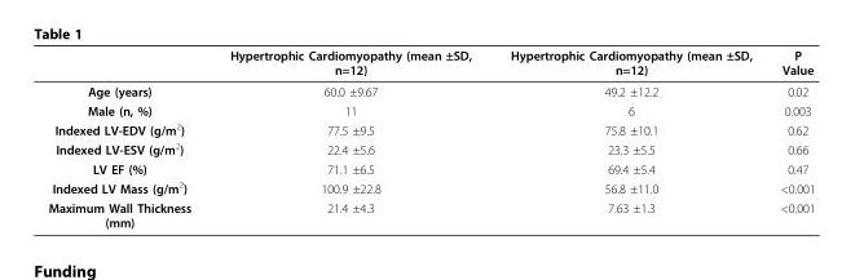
<table><thead><tr><td></td><td>Hypertrophic Cardiomyopathy (mean ±SD, n=12)</td><td>Hypertrophic Cardiomyopathy (mean ±SD, n=12)</td><td>P Value</td></tr></thead><tbody><tr><td>Age (years)</td><td>60.0 ±9.67</td><td>49.2 ±12.2</td><td>0.02</td></tr><tr><td>Male (n, %)</td><td>11</td><td>6</td><td>0.003</td></tr><tr><td>Indexed LV-EDV (g/m<sup>2</sup>)</td><td>77.5 ±9.5</td><td>75.8 ±10.1</td><td>0.62</td></tr><tr><td>Indexed LV-ESV (g/m<sup>2</sup>)</td><td>22.4 ±5.6</td><td>23.3 ±5.5</td><td>0.66</td></tr><tr><td>LV EF (%)</td><td>71.1 ±6.5</td><td>69.4 ±5.4</td><td>0.47</td></tr><tr><td>Indexed LV Mass (g/m<sup>2</sup>)</td><td>100.9 ±22.8</td><td>56.8 ±11.0</td><td>&lt;0.001</td></tr><tr><td>Maximum Wall Thickness (mm)</td><td>21.4 ±4.3</td><td>7.63 ±1.3</td><td>&lt;0.001</td></tr></tbody></table>